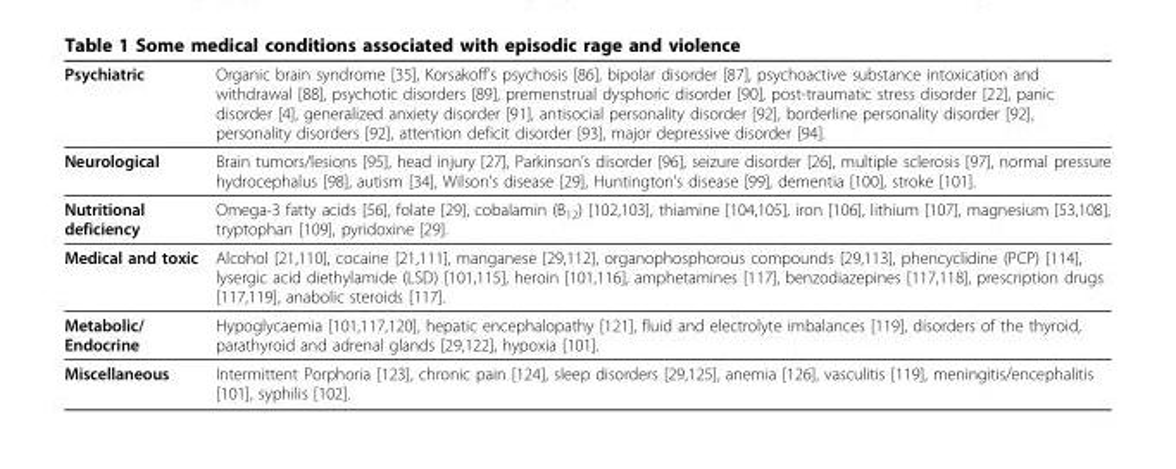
<table><thead><tr><td>Psychiatric</td><td>Organic brain syndrome [35], Korsakoff’s psychosis [86], bipolar disorder [87], psychoactive substance intoxication and withdrawal [88], psychotic disorders [89], premenstrual dysphoric disorder [90], post-traumatic stress disorder [22], panic disorder [4], generalized anxiety disorder [91], antisocial personality disorder [92], borderline personality disorder [92], personality disorders [92], attention deficit disorder [93], major depressive disorder [94].</td></tr></thead><tbody><tr><td>Neurological</td><td>Brain tumors/lesions [95], head injury [27], Parkinson’s disorder [96], seizure disorder [26], multiple sclerosis [97], normal pressure hydrocephalus [98], autism [34], Wilson’s disease [29], Huntington’s disease [99], dementia [100], stroke [101].</td></tr><tr><td>Nutritional deficiency</td><td>Omega-3 fatty acids [56], folate [29], cobalamin (B<sub>12</sub>) [102,103], thiamine [104,105], iron [106], lithium [107], magnesium [53,108], tryptophan [109], pyridoxine [29].</td></tr><tr><td>Medical and toxic</td><td>Alcohol [21,110], cocaine [21,111], manganese [29,112], organophosphorous compounds [29,113], phencyclidine (PCP) [114], lysergic acid diethylamide (LSD) [101,115], heroin [101,116], amphetamines [117], benzodiazepines [117,118], prescription drugs [117,119], anabolic steroids [117].</td></tr><tr><td>Metabolic/ Endocrine</td><td>Hypoglycaemia [101,117,120], hepatic encephalopathy [121], fluid and electrolyte imbalances [119], disorders of the thyroid, parathyroid and adrenal glands [29,122], hypoxia [101].</td></tr><tr><td>Miscellaneous</td><td>Intermittent Porphoria [123], chronic pain [124], sleep disorders [29,125], anemia [126], vasculitis [119], meningitis/encephalitis [101], syphilis [102].</td></tr></tbody></table>